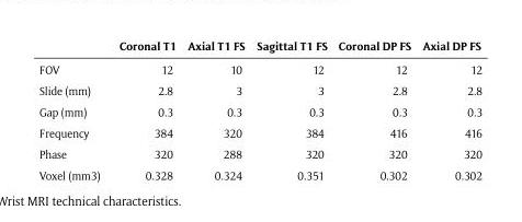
<table><thead><tr><td></td><td>Coronal T1</td><td>Axial T1 FS</td><td>Sagittal T1 FS</td><td>Coronal DP FS</td><td>Axial DP FS</td></tr></thead><tbody><tr><td>FOV</td><td>12</td><td>10</td><td>12</td><td>12</td><td>12</td></tr><tr><td>Slide (mm)</td><td>2.8</td><td>3</td><td>3</td><td>2.8</td><td>2.8</td></tr><tr><td>Gap (mm)</td><td>0.3</td><td>0.3</td><td>0.3</td><td>0.3</td><td>0.3</td></tr><tr><td>Frequency</td><td>384</td><td>320</td><td>384</td><td>416</td><td>416</td></tr><tr><td>Phase</td><td>320</td><td>288</td><td>320</td><td>320</td><td>320</td></tr><tr><td>Voxel (mm3)</td><td>0.328</td><td>0.324</td><td>0.351</td><td>0.302</td><td>0.302</td></tr></tbody></table>